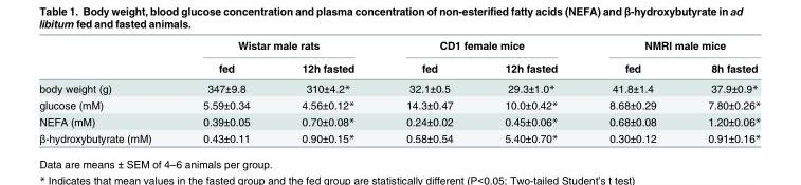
<table><thead><tr><td rowspan="2"></td><td colspan="2">Wistar male rats</td><td colspan="2">CD1 female mice</td><td colspan="2">NMRI male mice</td></tr><tr><td>fed</td><td>12h fasted</td><td>fed</td><td>12h fasted</td><td>fed</td><td>8h fasted</td></tr></thead><tbody><tr><td>body weight (g)</td><td>347±9.8</td><td>310±4.2*</td><td>32.1±0.5</td><td>29.3±1.0*</td><td>41.8±1.4</td><td>37.9±0.9*</td></tr><tr><td>glucose (mM)</td><td>5.59±0.34</td><td>4.56±0.12*</td><td>14.3±0.47</td><td>10.0±0.42*</td><td>8.68±0.29</td><td>7.80±0.26*</td></tr><tr><td>NEFA (mM)</td><td>0.39±0.05</td><td>0.70±0.08*</td><td>0.24±0.02</td><td>0.45±0.06*</td><td>0.68±0.08</td><td>1.20±0.06*</td></tr><tr><td>β-hydroxybutyrate (mM)</td><td>0.43±0.11</td><td>0.90±0.15*</td><td>0.58±0.54</td><td>5.40±0.70*</td><td>0.30±0.12</td><td>0.91±0.16*</td></tr></tbody></table>